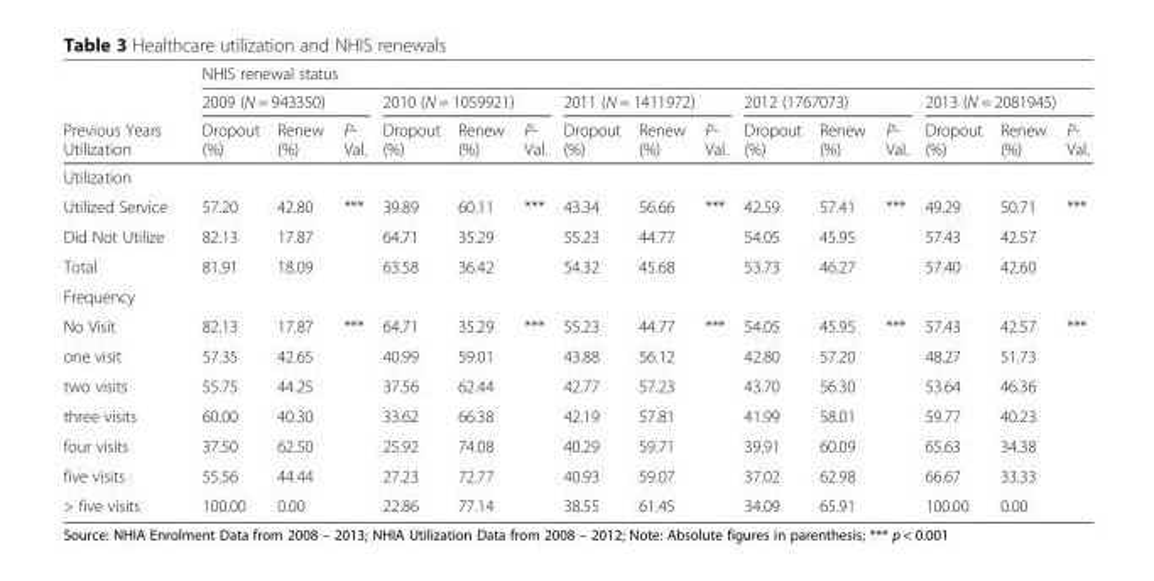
<table><thead><tr><td rowspan="3">Previous Years Utilization</td><td colspan="15">NHIS renewal status</td></tr><tr><td colspan="3">2009 (N = 943350)</td><td colspan="3">2010 (N = 1059921)</td><td colspan="3">2011 (N = 1411972)</td><td colspan="3">2012 (1767073)</td><td colspan="3">2013 (N = 2081945)</td></tr><tr><td>Dropout (%)</td><td>Renew (%)</td><td>P- Val.</td><td>Dropout (%)</td><td>Renew (%)</td><td>P- Val.</td><td>Dropout (%)</td><td>Renew (%)</td><td>P- Val.</td><td>Dropout (%)</td><td>Renew (%)</td><td>P- Val.</td><td>Dropout (%)</td><td>Renew (%)</td><td>P- Val.</td></tr></thead><tbody><tr><td colspan="16">Utilization</td></tr><tr><td>Utilized Service</td><td>57.20</td><td>42.80</td><td>***</td><td>39.89</td><td>60.11</td><td>***</td><td>43.34</td><td>56.66</td><td>***</td><td>42.59</td><td>57.41</td><td>***</td><td>49.29</td><td>50.71</td><td>***</td></tr><tr><td>Did Not Utilize</td><td>82.13</td><td>17.87</td><td></td><td>64.71</td><td>35.29</td><td></td><td>55.23</td><td>44.77</td><td></td><td>54.05</td><td>45.95</td><td></td><td>57.43</td><td>42.57</td><td></td></tr><tr><td>Total</td><td>81.91</td><td>18.09</td><td></td><td>63.58</td><td>36.42</td><td></td><td>54.32</td><td>45.68</td><td></td><td>53.73</td><td>46.27</td><td></td><td>57.40</td><td>42.60</td><td></td></tr><tr><td colspan="16">Frequency</td></tr><tr><td>No Visit</td><td>82.13</td><td>17.87</td><td>***</td><td>64.71</td><td>35.29</td><td>***</td><td>55.23</td><td>44.77</td><td>***</td><td>54.05</td><td>45.95</td><td>***</td><td>57.43</td><td>42.57</td><td>***</td></tr><tr><td>one visit</td><td>57.35</td><td>42.65</td><td></td><td>40.99</td><td>59.01</td><td></td><td>43.88</td><td>56.12</td><td></td><td>42.80</td><td>57.20</td><td></td><td>48.27</td><td>51.73</td><td></td></tr><tr><td>two visits</td><td>55.75</td><td>44.25</td><td></td><td>37.56</td><td>62.44</td><td></td><td>42.77</td><td>57.23</td><td></td><td>43.70</td><td>56.30</td><td></td><td>53.64</td><td>46.36</td><td></td></tr><tr><td>three visits</td><td>60.00</td><td>40.30</td><td></td><td>33.62</td><td>66.38</td><td></td><td>42.19</td><td>57.81</td><td></td><td>41.99</td><td>58.01</td><td></td><td>59.77</td><td>40.23</td><td></td></tr><tr><td>four visits</td><td>37.50</td><td>62.50</td><td></td><td>25.92</td><td>74.08</td><td></td><td>40.29</td><td>59.71</td><td></td><td>39.91</td><td>60.09</td><td></td><td>65.63</td><td>34.38</td><td></td></tr><tr><td>five visits</td><td>55.56</td><td>44.44</td><td></td><td>27.23</td><td>72.77</td><td></td><td>40.93</td><td>59.07</td><td></td><td>37.02</td><td>62.98</td><td></td><td>66.67</td><td>33.33</td><td></td></tr><tr><td>&gt; five visits</td><td>100.00</td><td>0.00</td><td></td><td>22.86</td><td>77.14</td><td></td><td>38.55</td><td>61.45</td><td></td><td>34.09</td><td>65.91</td><td></td><td>100.00</td><td>0.00</td><td></td></tr></tbody></table>